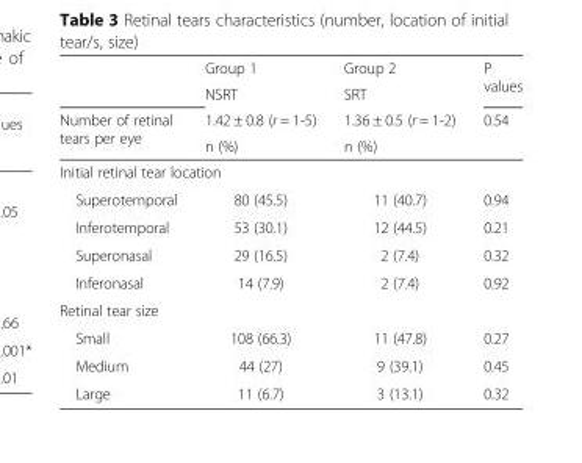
<table><thead><tr><td rowspan="4">Number of retinal tears per eye</td><td rowspan="4">Group 1 NSRT 1.42 ± 0.8 (r = 1-5) n (%)</td><td rowspan="4">Group 2 SRT 1.36 ± 0.5 (r = 1-2) n (%)</td><td rowspan="4">P values 0.54</td></tr><tr></tr><tr></tr><tr></tr></thead><tbody><tr><td colspan="4">Initial retinal tear location</td></tr><tr><td>Superotemporal</td><td>80 (45.5)</td><td>11 (40.7)</td><td>0.94</td></tr><tr><td>Inferotemporal</td><td>53 (30.1)</td><td>12 (44.5)</td><td>0.21</td></tr><tr><td>Superonasal</td><td>29 (16.5)</td><td>2 (7.4)</td><td>0.32</td></tr><tr><td>Inferonasal</td><td>14 (7.9)</td><td>2 (7.4)</td><td>0.92</td></tr><tr><td colspan="4">Retinal tear size</td></tr><tr><td>Small</td><td>108 (66.3)</td><td>11 (47.8)</td><td>0.27</td></tr><tr><td>Medium</td><td>44 (27)</td><td>9 (39.1)</td><td>0.45</td></tr><tr><td>Large</td><td>11 (6.7)</td><td>3 (13.1)</td><td>0.32</td></tr></tbody></table>